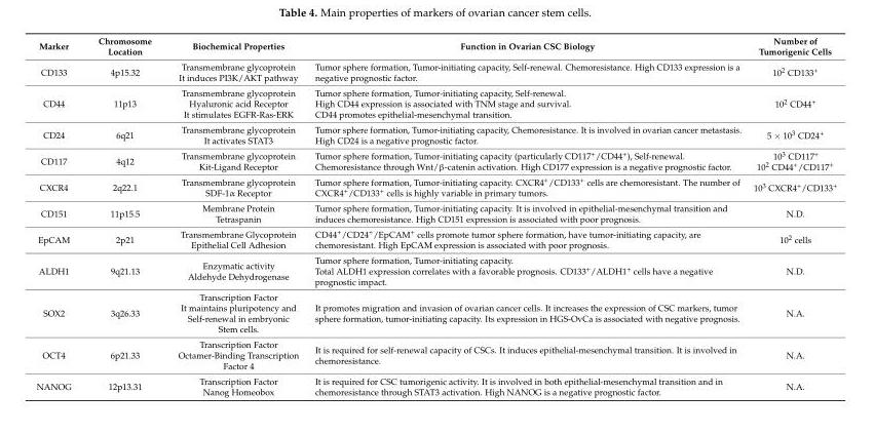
<table><thead><tr><td>Marker</td><td>Chromosome Location</td><td>Biochemical Properties</td><td>Function in Ovarian CSC Biology</td><td>Number of Tumorigenic Cells</td></tr></thead><tbody><tr><td>CD133</td><td>4p15.32</td><td>Transmembrane glycoprotein It induces PI3K/AKT pathway</td><td>Tumor sphere formation, Tumor-initiating capacity, Self-renewal. Chemoresistance. High CD133 expression is a negative prognostic factor.</td><td>10<sup>2</sup> CD133<sup>+</sup></td></tr><tr><td>CD44</td><td>11p13</td><td>Transmembrane glycoprotein Hyaluronic acid Receptor It stimulates EGFR-Ras-ERK</td><td>Tumor sphere formation, Tumor-initiating capacity, Self-renewal. High CD44 expression is associated with TNM stage and survival. CD44 promotes epithelial-mesenchymal transition.</td><td>10<sup>2</sup> CD44<sup>+</sup></td></tr><tr><td>CD24</td><td>6q21</td><td>Transmembrane glycoprotein It activates STAT3</td><td>Tumor sphere formation, Tumor-initiating capacity, Chemoresistance. It is involved in ovarian cancer metastasis. High CD24 is a negative prognostic factor.</td><td>5 × 10<sup>3</sup> CD24<sup>+</sup></td></tr><tr><td>CD117</td><td>4q12</td><td>Transmembrane glycoprotein Kit-Ligand Receptor</td><td>Tumor sphere formation, Tumor-initiating capacity (particularly CD117<sup>+</sup>/CD44<sup>+</sup>), Self-renewal. Chemoresistance through Wnt/β-catenin activation. High CD177 expression is a negative prognostic factor.</td><td>10<sup>3</sup> CD117<sup>+</sup> 10<sup>2</sup> CD44<sup>+</sup>/CD117<sup>+</sup></td></tr><tr><td>CXCR4</td><td>2q22.1</td><td>Transmembrane glycoprotein SDF-1α Receptor</td><td>Tumor sphere formation, Tumor-initiating capacity. CXCR4<sup>+</sup>/CD133<sup>+</sup> cells are chemoresistant. The number of CXCR4<sup>+</sup>/CD133<sup>+</sup> cells is highly variable in primary tumors.</td><td>10<sup>3</sup> CXCR4<sup>+</sup>/CD133<sup>+</sup></td></tr><tr><td>CD151</td><td>11p15.5</td><td>Membrane Protein Tetraspanin</td><td>Tumor sphere formation, Tumor-initiating capacity. It is involved in epithelial-mesenchymal transition and induces chemoresistance. High CD151 expression is associated with poor prognosis.</td><td>N.D.</td></tr><tr><td>EpCAM</td><td>2p21</td><td>Transmembrane Glycoprotein Epithelial Cell Adhesion</td><td>CD44<sup>+</sup>/CD24<sup>+</sup>/EpCAM<sup>+</sup> cells promote tumor sphere formation, have tumor-initiating capacity, are chemoresistant. High EpCAM expression is associated with poor prognosis.</td><td>10<sup>2</sup> cells</td></tr><tr><td>ALDH1</td><td>9q21.13</td><td>Enzymatic activity Aldehyde Dehydrogenase</td><td>Tumor sphere formation, Tumor-initiating capacity. Total ALDH1 expression correlates with a favorable prognosis. CD133<sup>+</sup>/ALDH1<sup>+</sup> cells have a negative prognostic impact.</td><td>N.D.</td></tr><tr><td>SOX2</td><td>3q26.33</td><td>Transcription Factor It maintains pluripotency and Self-renewal in embryonic Stem cells.</td><td>It promotes migration and invasion of ovarian cancer cells. It increases the expression of CSC markers, tumor sphere formation, tumor-initiating capacity. Its expression in HGS-OvCa is associated with negative prognosis.</td><td>N.A.</td></tr><tr><td>OCT4</td><td>6p21.33</td><td>Transcription Factor Octamer-Binding Transcription Factor 4</td><td>It is required for self-renewal capacity of CSCs. It induces epithelial-mesenchymal transition. It is involved in chemoresistance.</td><td>N.A.</td></tr><tr><td>NANOG</td><td>12p13.31</td><td>Transcription Factor Nanog Homeobox</td><td>It is required for CSC tumorigenic activity. It is involved in both epithelial-mesenchymal transition and in chemoresistance through STAT3 activation. High NANOG is a negative prognostic factor.</td><td>N.A.</td></tr></tbody></table>